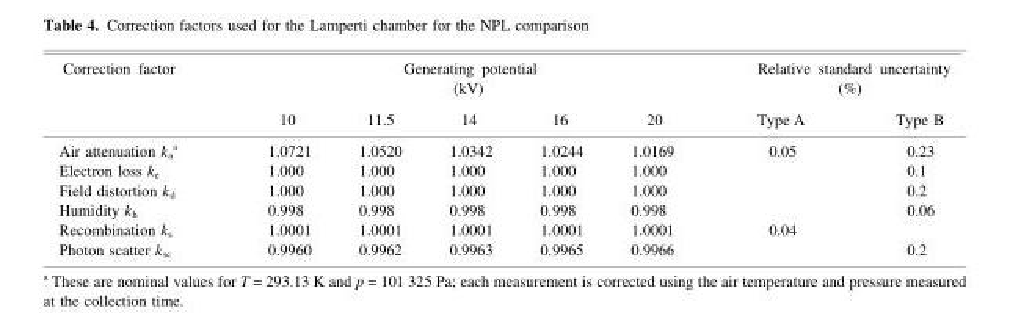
<table><thead><tr><td rowspan="2">Correction factor</td><td colspan="5">Generating potential (kV)</td><td colspan="2">Relative standard uncertainty (%)</td></tr><tr><td>10</td><td>11.5</td><td>14</td><td>16</td><td>20</td><td>Type A</td><td>Type B</td></tr></thead><tbody><tr><td>Air attenuation k<sub>a</sub> <sup>a</sup></td><td>1.0721</td><td>1.0520</td><td>1.0342</td><td>1.0244</td><td>1.0169</td><td>0.05</td><td>0.23</td></tr><tr><td>Electron loss k<sub>e</sub></td><td>1.000</td><td>1.000</td><td>1.000</td><td>1.000</td><td>1.000</td><td></td><td>0.1</td></tr><tr><td>Field distortion k<sub>d</sub></td><td>1.000</td><td>1.000</td><td>1.000</td><td>1.000</td><td>1.000</td><td></td><td>0.2</td></tr><tr><td>Humidity k<sub>h</sub></td><td>0.998</td><td>0.998</td><td>0.998</td><td>0.998</td><td>0.998</td><td></td><td>0.06</td></tr><tr><td>Recombination k<sub>s</sub></td><td>1.0001</td><td>1.0001</td><td>1.0001</td><td>1.0001</td><td>1.0001</td><td>0.04</td><td></td></tr><tr><td>Photon scatter k<sub>sc</sub></td><td>0.9960</td><td>0.9962</td><td>0.9963</td><td>0.9965</td><td>0.9966</td><td></td><td>0.2</td></tr></tbody></table>